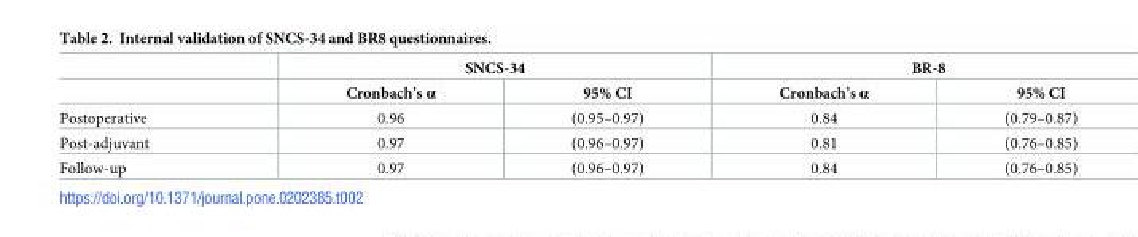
<table><thead><tr><td rowspan="2"></td><td colspan="2">SNCS-34</td><td colspan="2">BR-8</td></tr><tr><td>Cronbach’s α</td><td>95% CI</td><td>Cronbach’s α</td><td>95% CI</td></tr></thead><tbody><tr><td>Postoperative</td><td>0.96</td><td>(0.95–0.97)</td><td>0.84</td><td>(0.79–0.87)</td></tr><tr><td>Post-adjuvant</td><td>0.97</td><td>(0.96–0.97)</td><td>0.81</td><td>(0.76–0.85)</td></tr><tr><td>Follow-up</td><td>0.97</td><td>(0.96–0.97)</td><td>0.84</td><td>(0.76–0.85)</td></tr></tbody></table>